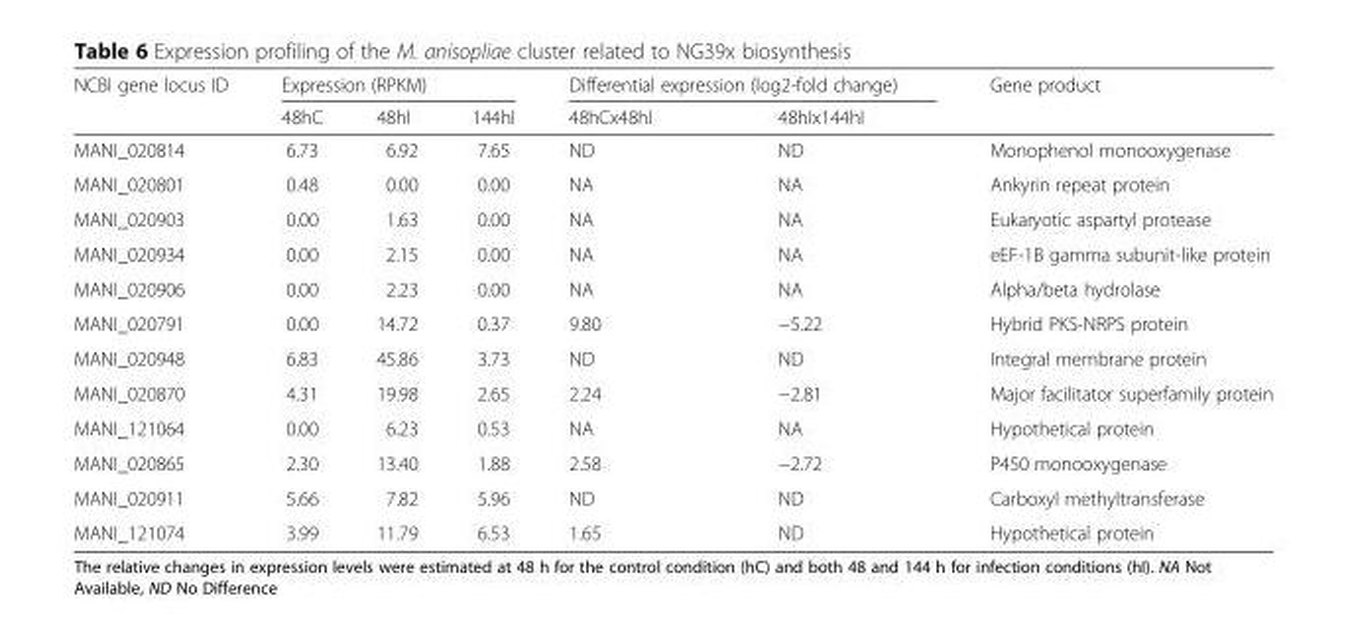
<table><thead><tr><td rowspan="2">NCBI gene locus ID</td><td colspan="3">Expression (RPKM)</td><td colspan="2">Differential expression (log2-fold change)</td><td rowspan="2">Gene product</td></tr><tr><td>48hC</td><td>48hI</td><td>144hI</td><td>48hCx48hI</td><td>48hIx144hI</td></tr></thead><tbody><tr><td>MANI_020814</td><td>6.73</td><td>6.92</td><td>7.65</td><td>ND</td><td>ND</td><td>Monophenol monooxygenase</td></tr><tr><td>MANI_020801</td><td>0.48</td><td>0.00</td><td>0.00</td><td>NA</td><td>NA</td><td>Ankyrin repeat protein</td></tr><tr><td>MANI_020903</td><td>0.00</td><td>1.63</td><td>0.00</td><td>NA</td><td>NA</td><td>Eukaryotic aspartyl protease</td></tr><tr><td>MANI_020934</td><td>0.00</td><td>2.15</td><td>0.00</td><td>NA</td><td>NA</td><td>eEF-1B gamma subunit-like protein</td></tr><tr><td>MANI_020906</td><td>0.00</td><td>2.23</td><td>0.00</td><td>NA</td><td>NA</td><td>Alpha/beta hydrolase</td></tr><tr><td>MANI_020791</td><td>0.00</td><td>14.72</td><td>0.37</td><td>9.80</td><td>−5.22</td><td>Hybrid PKS-NRPS protein</td></tr><tr><td>MANI_020948</td><td>6.83</td><td>45.86</td><td>3.73</td><td>ND</td><td>ND</td><td>Integral membrane protein</td></tr><tr><td>MANI_020870</td><td>4.31</td><td>19.98</td><td>2.65</td><td>2.24</td><td>−2.81</td><td>Major facilitator superfamily protein</td></tr><tr><td>MANI_121064</td><td>0.00</td><td>6.23</td><td>0.53</td><td>NA</td><td>NA</td><td>Hypothetical protein</td></tr><tr><td>MANI_020865</td><td>2.30</td><td>13.40</td><td>1.88</td><td>2.58</td><td>−2.72</td><td>P450 monooxygenase</td></tr><tr><td>MANI_020911</td><td>5.66</td><td>7.82</td><td>5.96</td><td>ND</td><td>ND</td><td>Carboxyl methyltransferase</td></tr><tr><td>MANI_121074</td><td>3.99</td><td>11.79</td><td>6.53</td><td>1.65</td><td>ND</td><td>Hypothetical protein</td></tr></tbody></table>